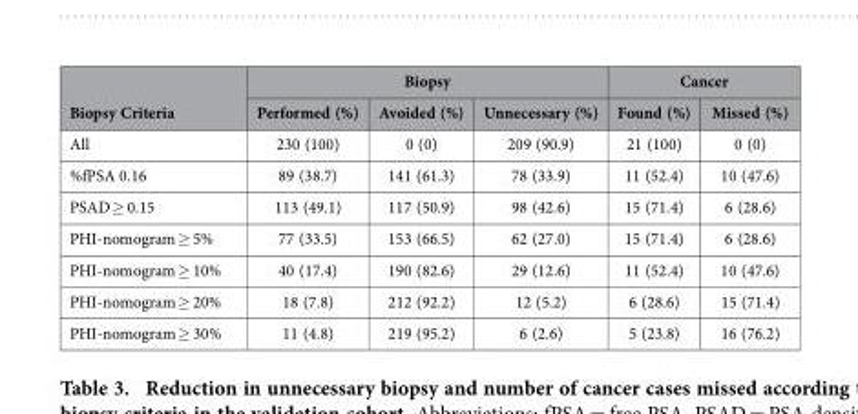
<table><thead><tr><td rowspan="2">Biopsy Criteria</td><td colspan="3">Biopsy</td><td colspan="2">Cancer</td></tr><tr><td>Performed (%)</td><td>Avoided (%)</td><td>Unnecessary (%)</td><td>Found (%)</td><td>Missed (%)</td></tr></thead><tbody><tr><td>All</td><td>230 (100)</td><td>0 (0)</td><td>209 (90.9)</td><td>21 (100)</td><td>0 (0)</td></tr><tr><td>%fPSA 0.16</td><td>89 (38.7)</td><td>141 (61.3)</td><td>78 (33.9)</td><td>11 (52.4)</td><td>10 (47.6)</td></tr><tr><td>PSAD ≥ 0.15</td><td>113 (49.1)</td><td>117 (50.9)</td><td>98 (42.6)</td><td>15 (71.4)</td><td>6 (28.6)</td></tr><tr><td>PHI-nomogram ≥ 5%</td><td>77 (33.5)</td><td>153 (66.5)</td><td>62 (27.0)</td><td>15 (71.4)</td><td>6 (28.6)</td></tr><tr><td>PHI-nomogram ≥ 10%</td><td>40 (17.4)</td><td>190 (82.6)</td><td>29 (12.6)</td><td>11 (52.4)</td><td>10 (47.6)</td></tr><tr><td>PHI-nomogram ≥ 20%</td><td>18 (7.8)</td><td>212 (92.2)</td><td>12 (5.2)</td><td>6 (28.6)</td><td>15 (71.4)</td></tr><tr><td>PHI-nomogram ≥ 30%</td><td>11 (4.8)</td><td>219 (95.2)</td><td>6 (2.6)</td><td>5 (23.8)</td><td>16 (76.2)</td></tr></tbody></table>